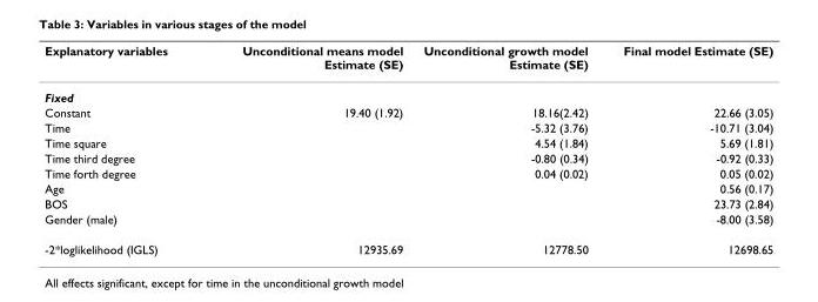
<table><thead><tr><td>Explanatory variables</td><td>Unconditional means model Estimate (SE)</td><td>Unconditional growth model Estimate (SE)</td><td>Final model Estimate (SE)</td></tr></thead><tbody><tr><td colspan="4">Fixed</td></tr><tr><td>Constant</td><td>19.40 (1.92)</td><td>18.16(2.42)</td><td>22.66 (3.05)</td></tr><tr><td>Time</td><td></td><td>-5.32 (3.76)</td><td>-10.71 (3.04)</td></tr><tr><td>Time square</td><td></td><td>4.54 (1.84)</td><td>5.69 (1.81)</td></tr><tr><td>Time third degree</td><td></td><td>-0.80 (0.34)</td><td>-0.92 (0.33)</td></tr><tr><td>Time forth degree</td><td></td><td>0.04 (0.02)</td><td>0.05 (0.02)</td></tr><tr><td>Age</td><td></td><td></td><td>0.56 (0.17)</td></tr><tr><td>BOS</td><td></td><td></td><td>23.73 (2.84)</td></tr><tr><td>Gender (male)</td><td></td><td></td><td>-8.00 (3.58)</td></tr><tr><td>-2*loglikelihood (IGLS)</td><td>12935.69</td><td>12778.50</td><td>12698.65</td></tr></tbody></table>